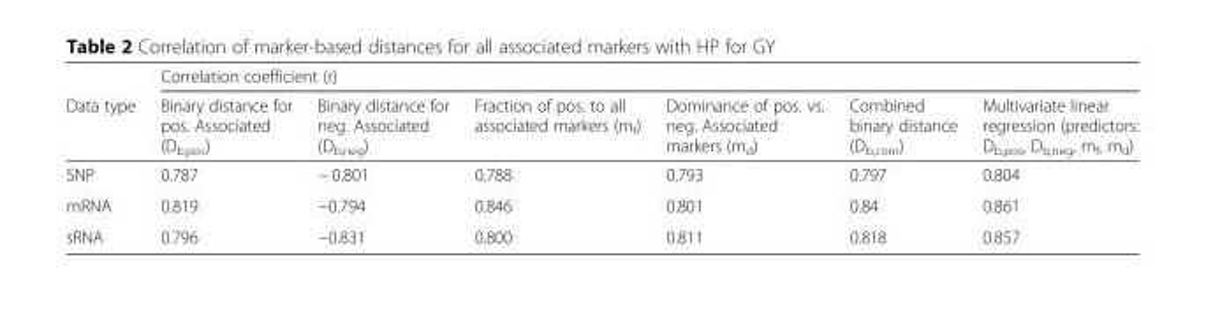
<table><thead><tr><td rowspan="2">Data type</td><td colspan="6">Correlation coefficient (r)</td></tr><tr><td>Binary distance for pos. Associated (D<sub>b,pos</sub>)</td><td>Binary distance for neg. Associated (D<sub>b,neg</sub>)</td><td>Fraction of pos. to all associated markers (m<sub>f</sub>)</td><td>Dominance of pos. vs. neg. Associated markers (m<sub>d</sub>)</td><td>Combined binary distance (D<sub>b,com</sub>)</td><td>Multivariate linear regression (predictors: D<sub>b,pos</sub>, D<sub>b,neg</sub>, m<sub>f</sub>, m<sub>d</sub>)</td></tr></thead><tbody><tr><td>SNP</td><td>0.787</td><td>− 0.801</td><td>0.788</td><td>0.793</td><td>0.797</td><td>0.804</td></tr><tr><td>mRNA</td><td>0.819</td><td>−0.794</td><td>0.846</td><td>0.801</td><td>0.84</td><td>0.861</td></tr><tr><td>sRNA</td><td>0.796</td><td>−0.831</td><td>0.800</td><td>0.811</td><td>0.818</td><td>0.857</td></tr></tbody></table>